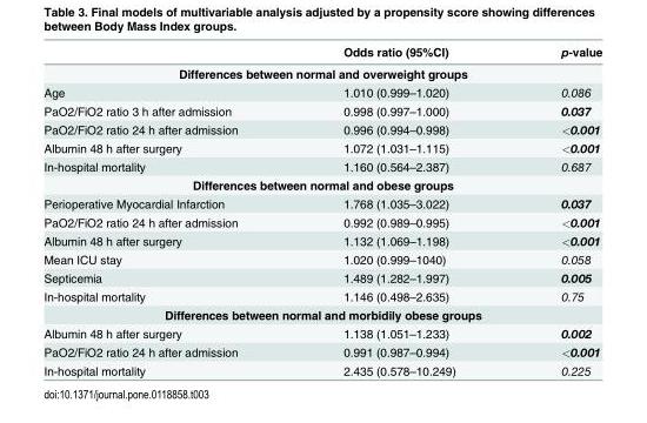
<table><thead><tr><td></td><td>Odds ratio (95%CI)</td><td>p-value</td></tr></thead><tbody><tr><td colspan="3">Differences between normal and overweight groups</td></tr><tr><td>Age</td><td>1.010 (0.999–1.020)</td><td>0.086</td></tr><tr><td>PaO2/FiO2 ratio 3 h after admission</td><td>0.998 (0.997–1.000)</td><td>0.037</td></tr><tr><td>PaO2/FiO2 ratio 24 h after admission</td><td>0.996 (0.994–0.998)</td><td>&lt;0.001</td></tr><tr><td>Albumin 48 h after surgery</td><td>1.072 (1.031–1.115)</td><td>&lt;0.001</td></tr><tr><td>In-hospital mortality</td><td>1.160 (0.564–2.387)</td><td>0.687</td></tr><tr><td colspan="3">Differences between normal and obese groups</td></tr><tr><td>Perioperative Myocardial Infarction</td><td>1.768 (1.035–3.022)</td><td>0.037</td></tr><tr><td>PaO2/FiO2 ratio 24 h after admission</td><td>0.992 (0.989–0.995)</td><td>&lt;0.001</td></tr><tr><td>Albumin 48 h after surgery</td><td>1.132 (1.069–1.198)</td><td>&lt;0.001</td></tr><tr><td>Mean ICU stay</td><td>1.020 (0.999–1040)</td><td>0.058</td></tr><tr><td>Septicemia</td><td>1.489 (1.282–1.997)</td><td>0.005</td></tr><tr><td>In-hospital mortality</td><td>1.146 (0.498–2.635)</td><td>0.75</td></tr><tr><td colspan="3">Differences between normal and morbidily obese groups</td></tr><tr><td>Albumin 48 h after surgery</td><td>1.138 (1.051–1.233)</td><td>0.002</td></tr><tr><td>PaO2/FiO2 ratio 24 h after admission</td><td>0.991 (0.987–0.994)</td><td>&lt;0.001</td></tr><tr><td>In-hospital mortality</td><td>2.435 (0.578–10.249)</td><td>0.225</td></tr></tbody></table>